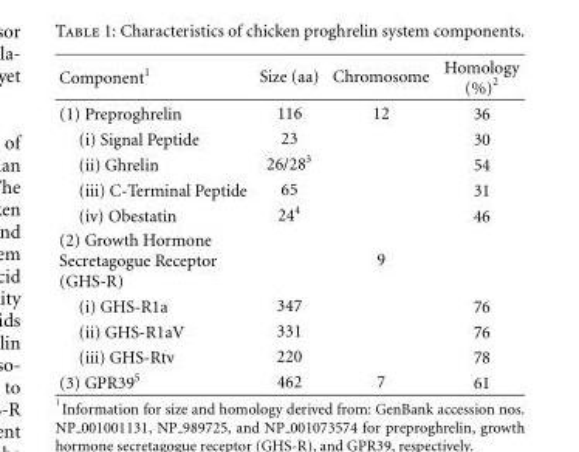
<table><thead><tr><td>Component<sup>1</sup></td><td>Size (aa)</td><td>Chromosome</td><td>Homology (%)<sup>2</sup></td></tr></thead><tbody><tr><td>(1) Preproghrelin</td><td>116</td><td>12</td><td>36</td></tr><tr><td>(i) Signal Peptide</td><td>23</td><td></td><td>30</td></tr><tr><td>(ii) Ghrelin</td><td>26/28<sup>3</sup></td><td></td><td>54</td></tr><tr><td>(iii) C-Terminal Peptide</td><td>65</td><td></td><td>31</td></tr><tr><td>(iv) Obestatin</td><td>24<sup>4</sup></td><td></td><td>46</td></tr><tr><td>(2) Growth Hormone Secretagogue Receptor (GHS-R)</td><td></td><td>9</td><td></td></tr><tr><td>(i) GHS-R1a</td><td>347</td><td></td><td>76</td></tr><tr><td>(ii) GHS-R1aV</td><td>331</td><td></td><td>76</td></tr><tr><td>(iii) GHS-Rtv</td><td>220</td><td></td><td>78</td></tr><tr><td>(3) GPR39<sup>5</sup></td><td>462</td><td>7</td><td>61</td></tr></tbody></table>